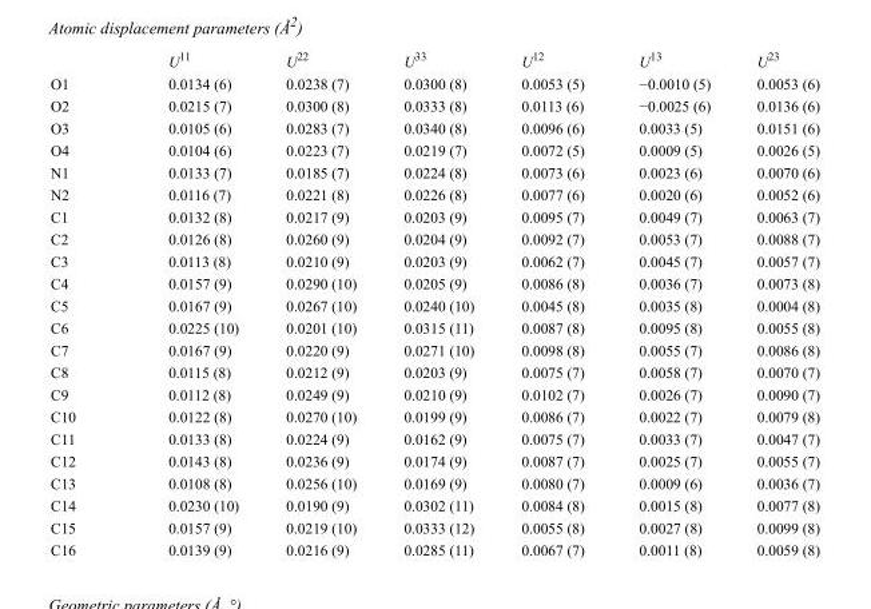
<table><thead><tr><td></td><td>U<sup>11</sup></td><td>U<sup>22</sup></td><td>U<sup>33</sup></td><td>U<sup>12</sup></td><td>U<sup>13</sup></td><td>U<sup>23</sup></td></tr></thead><tbody><tr><td>O1</td><td>0.0134 (6)</td><td>0.0238 (7)</td><td>0.0300 (8)</td><td>0.0053 (5)</td><td>−0.0010 (5)</td><td>0.0053 (6)</td></tr><tr><td>O2</td><td>0.0215 (7)</td><td>0.0300 (8)</td><td>0.0333 (8)</td><td>0.0113 (6)</td><td>−0.0025 (6)</td><td>0.0136 (6)</td></tr><tr><td>O3</td><td>0.0105 (6)</td><td>0.0283 (7)</td><td>0.0340 (8)</td><td>0.0096 (6)</td><td>0.0033 (5)</td><td>0.0151 (6)</td></tr><tr><td>O4</td><td>0.0104 (6)</td><td>0.0223 (7)</td><td>0.0219 (7)</td><td>0.0072 (5)</td><td>0.0009 (5)</td><td>0.0026 (5)</td></tr><tr><td>N1</td><td>0.0133 (7)</td><td>0.0185 (7)</td><td>0.0224 (8)</td><td>0.0073 (6)</td><td>0.0023 (6)</td><td>0.0070 (6)</td></tr><tr><td>N2</td><td>0.0116 (7)</td><td>0.0221 (8)</td><td>0.0226 (8)</td><td>0.0077 (6)</td><td>0.0020 (6)</td><td>0.0052 (6)</td></tr><tr><td>C1</td><td>0.0132 (8)</td><td>0.0217 (9)</td><td>0.0203 (9)</td><td>0.0095 (7)</td><td>0.0049 (7)</td><td>0.0063 (7)</td></tr><tr><td>C2</td><td>0.0126 (8)</td><td>0.0260 (9)</td><td>0.0204 (9)</td><td>0.0092 (7)</td><td>0.0053 (7)</td><td>0.0088 (7)</td></tr><tr><td>C3</td><td>0.0113 (8)</td><td>0.0210 (9)</td><td>0.0203 (9)</td><td>0.0062 (7)</td><td>0.0045 (7)</td><td>0.0057 (7)</td></tr><tr><td>C4</td><td>0.0157 (9)</td><td>0.0290 (10)</td><td>0.0205 (9)</td><td>0.0086 (8)</td><td>0.0036 (7)</td><td>0.0073 (8)</td></tr><tr><td>C5</td><td>0.0167 (9)</td><td>0.0267 (10)</td><td>0.0240 (10)</td><td>0.0045 (8)</td><td>0.0035 (8)</td><td>0.0004 (8)</td></tr><tr><td>C6</td><td>0.0225 (10)</td><td>0.0201 (10)</td><td>0.0315 (11)</td><td>0.0087 (8)</td><td>0.0095 (8)</td><td>0.0055 (8)</td></tr><tr><td>C7</td><td>0.0167 (9)</td><td>0.0220 (9)</td><td>0.0271 (10)</td><td>0.0098 (8)</td><td>0.0055 (7)</td><td>0.0086 (8)</td></tr><tr><td>C8</td><td>0.0115 (8)</td><td>0.0212 (9)</td><td>0.0203 (9)</td><td>0.0075 (7)</td><td>0.0058 (7)</td><td>0.0070 (7)</td></tr><tr><td>C9</td><td>0.0112 (8)</td><td>0.0249 (9)</td><td>0.0210 (9)</td><td>0.0102 (7)</td><td>0.0026 (7)</td><td>0.0090 (7)</td></tr><tr><td>C10</td><td>0.0122 (8)</td><td>0.0270 (10)</td><td>0.0199 (9)</td><td>0.0086 (7)</td><td>0.0022 (7)</td><td>0.0079 (8)</td></tr><tr><td>C11</td><td>0.0133 (8)</td><td>0.0224 (9)</td><td>0.0162 (9)</td><td>0.0075 (7)</td><td>0.0033 (7)</td><td>0.0047 (7)</td></tr><tr><td>C12</td><td>0.0143 (8)</td><td>0.0236 (9)</td><td>0.0174 (9)</td><td>0.0087 (7)</td><td>0.0025 (7)</td><td>0.0055 (7)</td></tr><tr><td>C13</td><td>0.0108 (8)</td><td>0.0256 (10)</td><td>0.0169 (9)</td><td>0.0080 (7)</td><td>0.0009 (6)</td><td>0.0036 (7)</td></tr><tr><td>C14</td><td>0.0230 (10)</td><td>0.0190 (9)</td><td>0.0302 (11)</td><td>0.0084 (8)</td><td>0.0015 (8)</td><td>0.0077 (8)</td></tr><tr><td>C15</td><td>0.0157 (9)</td><td>0.0219 (10)</td><td>0.0333 (12)</td><td>0.0055 (8)</td><td>0.0027 (8)</td><td>0.0099 (8)</td></tr><tr><td>C16</td><td>0.0139 (9)</td><td>0.0216 (9)</td><td>0.0285 (11)</td><td>0.0067 (7)</td><td>0.0011 (8)</td><td>0.0059 (8)</td></tr></tbody></table>